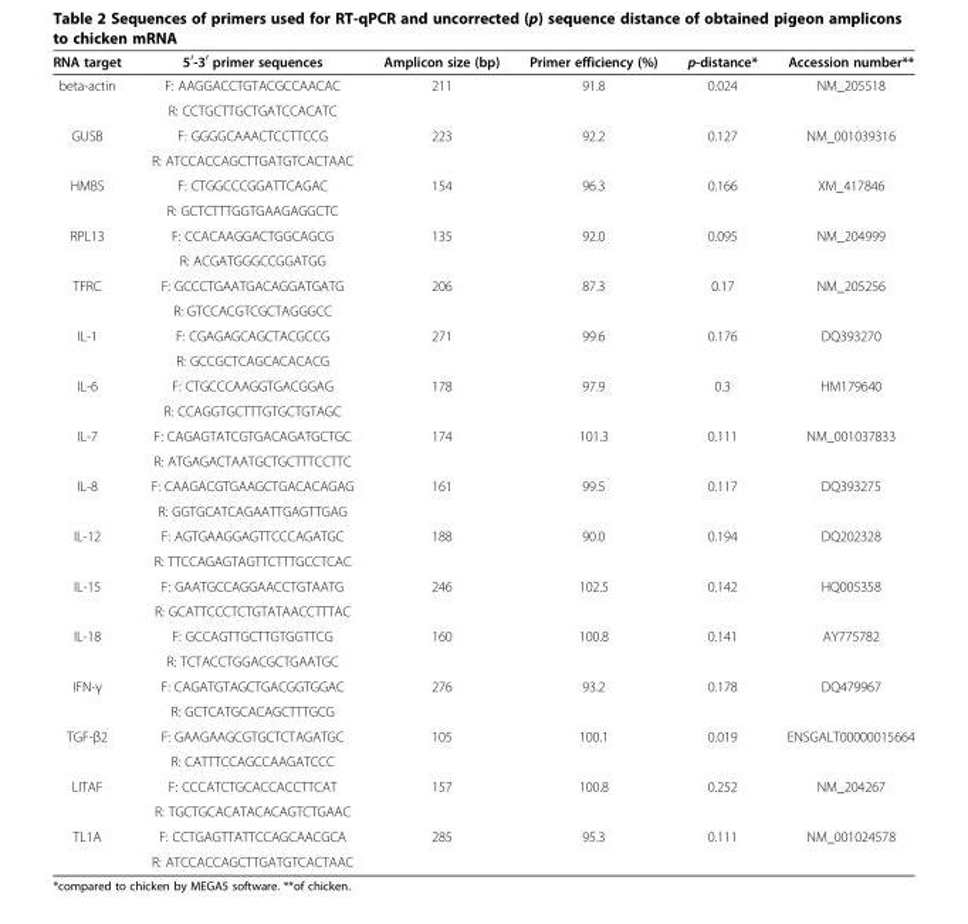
<table><thead><tr><td>RNA target</td><td>5<sup>′</sup>-3<sup>′</sup> primer sequences</td><td>Amplicon size (bp)</td><td>Primer efficiency (%)</td><td>p-distance*</td><td>Accession number**</td></tr></thead><tbody><tr><td rowspan="2">beta-actin</td><td>F: AAGGACCTGTACGCCAACAC</td><td>211</td><td>91.8</td><td>0.024</td><td>NM_205518</td></tr><tr><td>R: CCTGCTTGCTGATCCACATC</td><td></td><td></td><td></td><td></td></tr><tr><td rowspan="2">GUSB</td><td>F: GGGGCAAACTCCTTCCG</td><td>223</td><td>92.2</td><td>0.127</td><td>NM_001039316</td></tr><tr><td>R: ATCCACCAGCTTGATGTCACTAAC</td><td></td><td></td><td></td><td></td></tr><tr><td rowspan="2">HMBS</td><td>F: CTGGCCCGGATTCAGAC</td><td>154</td><td>96.3</td><td>0.166</td><td>XM_417846</td></tr><tr><td>R: GCTCTTTGGTGAAGAGGCTC</td><td></td><td></td><td></td><td></td></tr><tr><td rowspan="2">RPL13</td><td>F: CCACAAGGACTGGCAGCG</td><td>135</td><td>92.0</td><td>0.095</td><td>NM_204999</td></tr><tr><td>R: ACGATGGGCCGGATGG</td><td></td><td></td><td></td><td></td></tr><tr><td rowspan="2">TFRC</td><td>F: GCCCTGAATGACAGGATGATG</td><td>206</td><td>87.3</td><td>0.17</td><td>NM_205256</td></tr><tr><td>R: GTCCACGTCGCTAGGGCC</td><td></td><td></td><td></td><td></td></tr><tr><td rowspan="2">IL-1</td><td>F: CGAGAGCAGCTACGCCG</td><td>271</td><td>99.6</td><td>0.176</td><td>DQ393270</td></tr><tr><td>R: GCCGCTCAGCACACACG</td><td></td><td></td><td></td><td></td></tr><tr><td rowspan="2">IL-6</td><td>F: CTGCCCAAGGTGACGGAG</td><td>178</td><td>97.9</td><td>0.3</td><td>HM179640</td></tr><tr><td>R: CCAGGTGCTTTGTGCTGTAGC</td><td></td><td></td><td></td><td></td></tr><tr><td rowspan="2">IL-7</td><td>F: CAGAGTATCGTGACAGATGCTGC</td><td>174</td><td>101.3</td><td>0.111</td><td>NM_001037833</td></tr><tr><td>R: ATGAGACTAATGCTGCTTTCCTTC</td><td></td><td></td><td></td><td></td></tr><tr><td rowspan="2">IL-8</td><td>F: CAAGACGTGAAGCTGACACAGAG</td><td>161</td><td>99.5</td><td>0.117</td><td>DQ393275</td></tr><tr><td>R: GGTGCATCAGAATTGAGTTGAG</td><td></td><td></td><td></td><td></td></tr><tr><td rowspan="2">IL-12</td><td>F: AGTGAAGGAGTTCCCAGATGC</td><td>188</td><td>90.0</td><td>0.194</td><td>DQ202328</td></tr><tr><td>R: TTCCAGAGTAGTTCTTTGCCTCAC</td><td></td><td></td><td></td><td></td></tr><tr><td rowspan="2">IL-15</td><td>F: GAATGCCAGGAACCTGTAATG</td><td>246</td><td>102.5</td><td>0.142</td><td>HQ005358</td></tr><tr><td>R: GCATTCCCTCTGTATAACCTTTAC</td><td></td><td></td><td></td><td></td></tr><tr><td rowspan="2">IL-18</td><td>F: GCCAGTTGCTTGTGGTTCG</td><td>160</td><td>100.8</td><td>0.141</td><td>AY775782</td></tr><tr><td>R: TCTACCTGGACGCTGAATGC</td><td></td><td></td><td></td><td></td></tr><tr><td rowspan="2">IFN-γ</td><td>F: CAGATGTAGCTGACGGTGGAC</td><td>276</td><td>93.2</td><td>0.178</td><td>DQ479967</td></tr><tr><td>R: GCTCATGCACAGCTTTGCG</td><td></td><td></td><td></td><td></td></tr><tr><td rowspan="2">TGF-β2</td><td>F: GAAGAAGCGTGCTCTAGATGC</td><td>105</td><td>100.1</td><td>0.019</td><td>ENSGALT00000015664</td></tr><tr><td>R: CATTTCCAGCCAAGATCCC</td><td></td><td></td><td></td><td></td></tr><tr><td rowspan="2">LITAF</td><td>F: CCCATCTGCACCACCTTCAT</td><td>157</td><td>100.8</td><td>0.252</td><td>NM_204267</td></tr><tr><td>R: TGCTGCACATACACAGTCTGAAC</td><td></td><td></td><td></td><td></td></tr><tr><td rowspan="2">TL1A</td><td>F: CCTGAGTTATTCCAGCAACGCA</td><td>285</td><td>95.3</td><td>0.111</td><td>NM_001024578</td></tr><tr><td>R: ATCCACCAGCTTGATGTCACTAAC</td><td></td><td></td><td></td><td></td></tr></tbody></table>